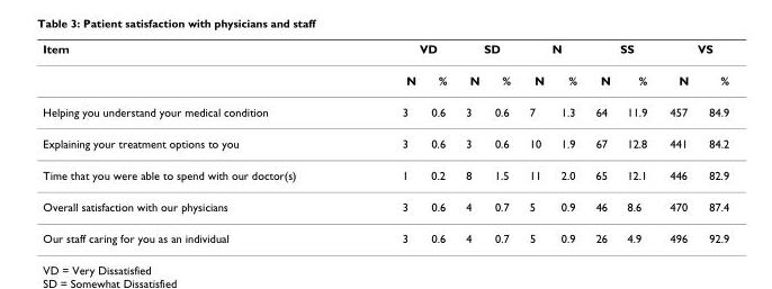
<table><thead><tr><td rowspan="2">Item</td><td colspan="2">VD</td><td colspan="2">SD</td><td colspan="2">N</td><td colspan="2">SS</td><td colspan="2">VS</td></tr><tr><td>N</td><td>%</td><td>N</td><td>%</td><td>N</td><td>%</td><td>N</td><td>%</td><td>N</td><td>%</td></tr></thead><tbody><tr><td>Helping you understand your medical condition</td><td>3</td><td>0.6</td><td>3</td><td>0.6</td><td>7</td><td>1.3</td><td>64</td><td>11.9</td><td>457</td><td>84.9</td></tr><tr><td>Explaining your treatment options to you</td><td>3</td><td>0.6</td><td>3</td><td>0.6</td><td>10</td><td>1.9</td><td>67</td><td>12.8</td><td>441</td><td>84.2</td></tr><tr><td>Time that you were able to spend with our doctor(s)</td><td>1</td><td>0.2</td><td>8</td><td>1.5</td><td>11</td><td>2.0</td><td>65</td><td>12.1</td><td>446</td><td>82.9</td></tr><tr><td>Overall satisfaction with our physicians</td><td>3</td><td>0.6</td><td>4</td><td>0.7</td><td>5</td><td>0.9</td><td>46</td><td>8.6</td><td>470</td><td>87.4</td></tr><tr><td>Our staff caring for you as an individual</td><td>3</td><td>0.6</td><td>4</td><td>0.7</td><td>5</td><td>0.9</td><td>26</td><td>4.9</td><td>496</td><td>92.9</td></tr></tbody></table>